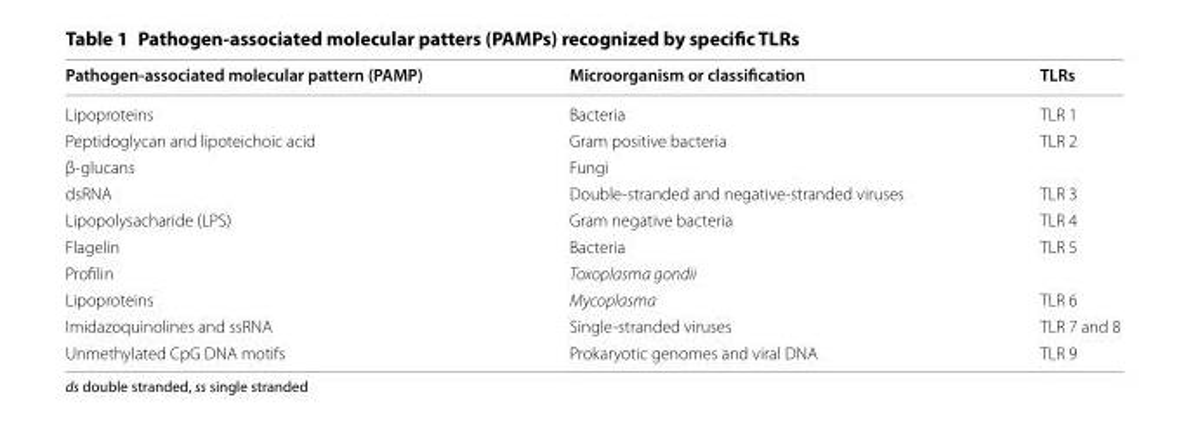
<table><thead><tr><td>Pathogen-associated molecular pattern (PAMP)</td><td>Microorganism or classification</td><td>TLRs</td></tr></thead><tbody><tr><td>Lipoproteins</td><td>Bacteria</td><td>TLR 1</td></tr><tr><td>Peptidoglycan and lipoteichoic acid</td><td>Gram positive bacteria</td><td rowspan="2">TLR 2</td></tr><tr><td>β-glucans</td><td>Fungi</td></tr><tr><td>dsRNA</td><td>Double-stranded and negative-stranded viruses</td><td>TLR 3</td></tr><tr><td>Lipopolysacharide (LPS)</td><td>Gram negative bacteria</td><td>TLR 4</td></tr><tr><td>Flagelin</td><td>Bacteria</td><td rowspan="2">TLR 5</td></tr><tr><td>Profilin</td><td>Toxoplasma gondii</td></tr><tr><td>Lipoproteins</td><td>Mycoplasma</td><td>TLR 6</td></tr><tr><td>Imidazoquinolines and ssRNA</td><td>Single-stranded viruses</td><td>TLR 7 and 8</td></tr><tr><td>Unmethylated CpG DNA motifs</td><td>Prokaryotic genomes and viral DNA</td><td>TLR 9</td></tr></tbody></table>